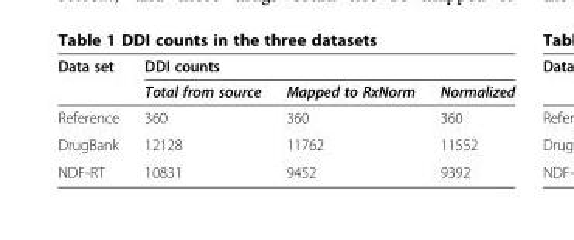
<table><thead><tr><td rowspan="2">Data set</td><td colspan="3">DDI counts</td></tr><tr><td>Total from source</td><td>Mapped to RxNorm</td><td>Normalized</td></tr></thead><tbody><tr><td>Reference</td><td>360</td><td>360</td><td>360</td></tr><tr><td>DrugBank</td><td>12128</td><td>11762</td><td>11552</td></tr><tr><td>NDF-RT</td><td>10831</td><td>9452</td><td>9392</td></tr></tbody></table>